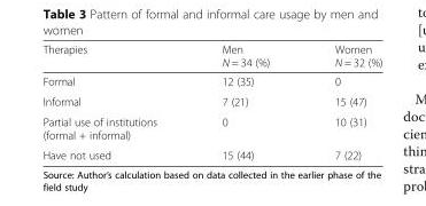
<table><thead><tr><td>Therapies</td><td>Men N = 34 (%)</td><td>Women N = 32 (%)</td></tr></thead><tbody><tr><td>Formal</td><td>12 (35)</td><td>0</td></tr><tr><td>Informal</td><td>7 (21)</td><td>15 (47)</td></tr><tr><td>Partial use of institutions (formal + informal)</td><td>0</td><td>10 (31)</td></tr><tr><td>Have not used</td><td>15 (44)</td><td>7 (22)</td></tr></tbody></table>